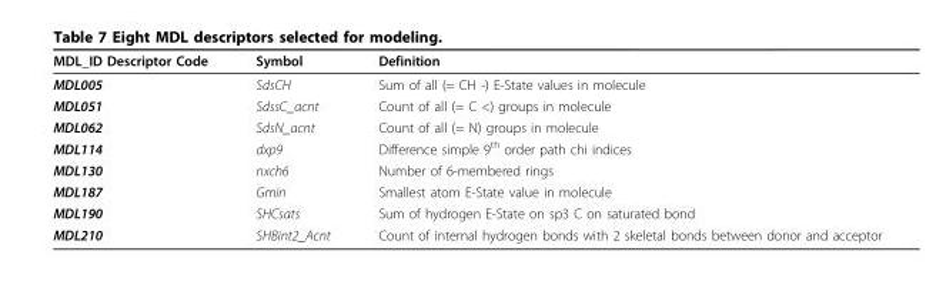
<table><thead><tr><td>MDL_ID Descriptor Code</td><td>Symbol</td><td>Definition</td></tr></thead><tbody><tr><td>MDL005</td><td>SdsCH</td><td>Sum of all (= CH -) E-State values in molecule</td></tr><tr><td>MDL051</td><td>SdssC_acnt</td><td>Count of all (= C &lt;) groups in molecule</td></tr><tr><td>MDL062</td><td>SdsN_acnt</td><td>Count of all (= N) groups in molecule</td></tr><tr><td>MDL114</td><td>dxp9</td><td>Difference simple 9<sup>th</sup> order path chi indices</td></tr><tr><td>MDL130</td><td>nxch6</td><td>Number of 6-membered rings</td></tr><tr><td>MDL187</td><td>Gmin</td><td>Smallest atom E-State value in molecule</td></tr><tr><td>MDL190</td><td>SHCsats</td><td>Sum of hydrogen E-State on sp3 C on saturated bond</td></tr><tr><td>MDL210</td><td>SHBint2_Acnt</td><td>Count of internal hydrogen bonds with 2 skeletal bonds between donor and acceptor</td></tr></tbody></table>